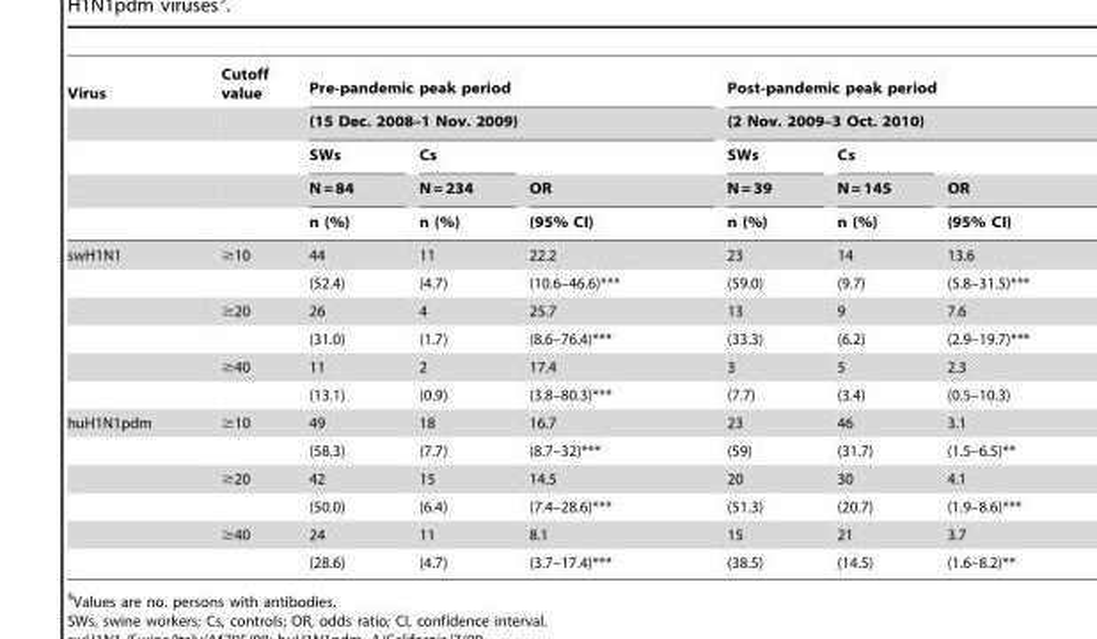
<table><thead><tr><td rowspan="5">Virus</td><td rowspan="5">Cutoff value</td><td rowspan="2" colspan="3">Pre-pandemic peak period (15 Dec. 2008–1 Nov. 2009)</td><td rowspan="2" colspan="3">Post-pandemic peak period (2 Nov. 2009–3 Oct. 2010)</td></tr><tr></tr><tr><td rowspan="3">SWs N = 84 n (%)</td><td rowspan="3">Cs N = 234 n (%)</td><td rowspan="3">OR (95% CI)</td><td rowspan="3">SWs N = 39 n (%)</td><td rowspan="3">Cs N = 145 n (%)</td><td rowspan="3">OR (95% CI)</td></tr><tr></tr><tr></tr></thead><tbody><tr><td rowspan="6">swH1N1</td><td>≥10</td><td>44</td><td>11</td><td>22.2</td><td>23</td><td>14</td><td>13.6</td></tr><tr><td></td><td>(52.4)</td><td>(4.7)</td><td>(10.6–46.6)***</td><td>(59.0)</td><td>(9.7)</td><td>(5.8–31.5)***</td></tr><tr><td>≥20</td><td>26</td><td>4</td><td>25.7</td><td>13</td><td>9</td><td>7.6</td></tr><tr><td></td><td>(31.0)</td><td>(1.7)</td><td>(8.6–76.4)***</td><td>(33.3)</td><td>(6.2)</td><td>(2.9–19.7)***</td></tr><tr><td>≥40</td><td>11</td><td>2</td><td>17.4</td><td>3</td><td>5</td><td>2.3</td></tr><tr><td></td><td>(13.1)</td><td>(0.9)</td><td>(3.8–80.3)***</td><td>(7.7)</td><td>(3.4)</td><td>(0.5–10.3)</td></tr><tr><td rowspan="6">huH1N1pdm</td><td>≥10</td><td>49</td><td>18</td><td>16.7</td><td>23</td><td>46</td><td>3.1</td></tr><tr><td></td><td>(58.3)</td><td>(7.7)</td><td>(8.7–32)***</td><td>(59)</td><td>(31.7)</td><td>(1.5–6.5)**</td></tr><tr><td>≥20</td><td>42</td><td>15</td><td>14.5</td><td>20</td><td>30</td><td>4.1</td></tr><tr><td></td><td>(50.0)</td><td>(6.4)</td><td>(7.4–28.6)***</td><td>(51.3)</td><td>(20.7)</td><td>(1.9–8.6)***</td></tr><tr><td>≥40</td><td>24</td><td>11</td><td>8.1</td><td>15</td><td>21</td><td>3.7</td></tr><tr><td></td><td>(28.6)</td><td>(4.7)</td><td>(3.7–17.4)***</td><td>(38.5)</td><td>(14.5)</td><td>(1.6–8.2)**</td></tr></tbody></table>